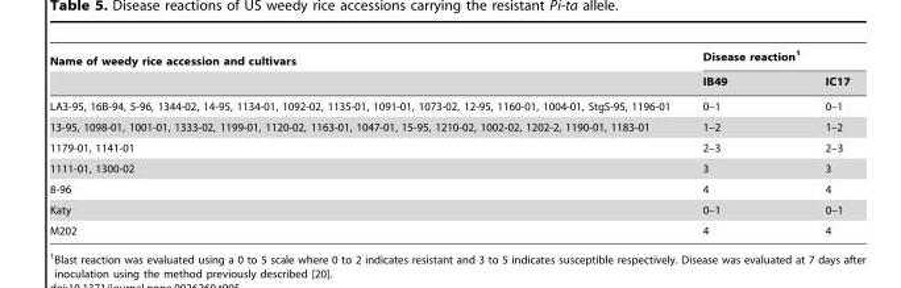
<table><thead><tr><td rowspan="2">Name of weedy rice accession and cultivars</td><td colspan="2">Disease reaction<sup>1</sup></td></tr><tr><td>IB49</td><td>IC17</td></tr></thead><tbody><tr><td>LA3-95, 16B-94, 5-96, 1344-02, 14-95, 1134-01, 1092-02, 1135-01, 1091-01, 1073-02, 12-95, 1160-01, 1004-01, StgS-95, 1196-01</td><td>0–1</td><td>0–1</td></tr><tr><td>13-95, 1098-01, 1001-01, 1333-02, 1199-01, 1120-02, 1163-01, 1047-01, 15-95, 1210-02, 1002-02, 1202-2, 1190-01, 1183-01</td><td>1–2</td><td>1–2</td></tr><tr><td>1179-01, 1141-01</td><td>2–3</td><td>2–3</td></tr><tr><td>1111-01, 1300-02</td><td>3</td><td>3</td></tr><tr><td>8-96</td><td>4</td><td>4</td></tr><tr><td>Katy</td><td>0–1</td><td>0–1</td></tr><tr><td>M202</td><td>4</td><td>4</td></tr></tbody></table>